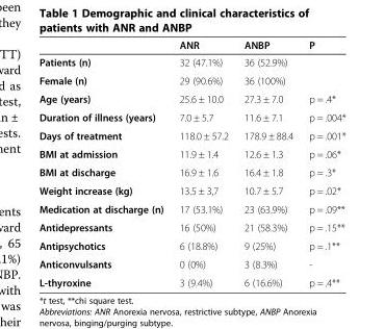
<table><thead><tr><td></td><td>ANR</td><td>ANBP</td><td>P</td></tr></thead><tbody><tr><td>Patients (n)</td><td>32 (47.1%)</td><td>36 (52.9%)</td><td></td></tr><tr><td>Female (n)</td><td>29 (90.6%)</td><td>36 (100%)</td><td></td></tr><tr><td>Age (years)</td><td>25.6 ± 10.0</td><td>27.3 ± 7.0</td><td>p = .4*</td></tr><tr><td>Duration of illness (years)</td><td>7.0 ± 5.7</td><td>11.6 ± 7.1</td><td>p = .004*</td></tr><tr><td>Days of treatment</td><td>118.0 ± 57.2</td><td>178.9 ± 88.4</td><td>p = .001*</td></tr><tr><td>BMI at admission</td><td>11.9 ± 1.4</td><td>12.6 ± 1.3</td><td>p = .06*</td></tr><tr><td>BMI at discharge</td><td>16.9 ± 1.6</td><td>16.4 ± 1.8</td><td>p = .3*</td></tr><tr><td>Weight increase (kg)</td><td>13.5 ± 3,7</td><td>10.7 ± 5.7</td><td>p = .02*</td></tr><tr><td>Medication at discharge (n)</td><td>17 (53.1%)</td><td>23 (63.9%)</td><td>p = .09**</td></tr><tr><td>Antidepressants</td><td>16 (50%)</td><td>21 (58.3%)</td><td>p = .15**</td></tr><tr><td>Antipsychotics</td><td>6 (18.8%)</td><td>9 (25%)</td><td>p = .1**</td></tr><tr><td>Anticonvulsants</td><td>0 (0%)</td><td>3 (8.3%)</td><td>-</td></tr><tr><td>L-thyroxine</td><td>3 (9.4%)</td><td>6 (16.6%)</td><td>p = .4**</td></tr></tbody></table>